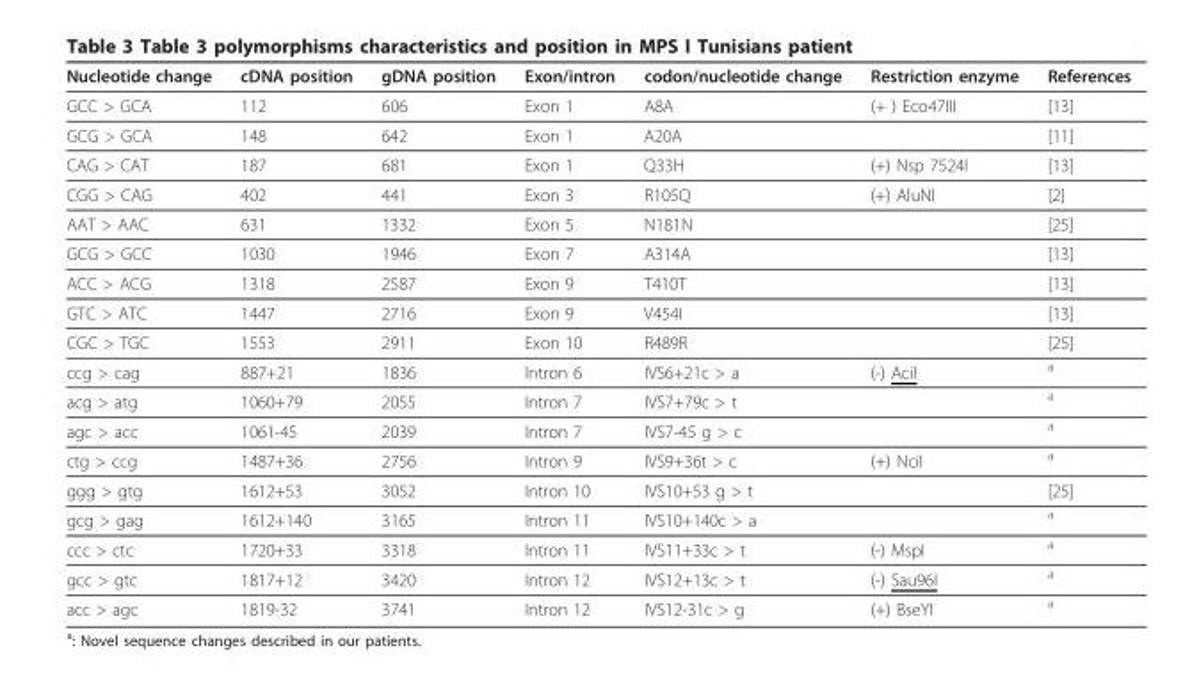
<table><thead><tr><td>Nucleotide change</td><td>cDNA position</td><td>gDNA position</td><td>Exon/intron</td><td>codon/nucleotide change</td><td>Restriction enzyme</td><td>References</td></tr></thead><tbody><tr><td>GCC &gt; GCA</td><td>112</td><td>606</td><td>Exon 1</td><td>A8A</td><td>(+ ) Eco47III</td><td>[13]</td></tr><tr><td>GCG &gt; GCA</td><td>148</td><td>642</td><td>Exon 1</td><td>A20A</td><td></td><td>[11]</td></tr><tr><td>CAG &gt; CAT</td><td>187</td><td>681</td><td>Exon 1</td><td>Q33H</td><td>(+) Nsp 7524I</td><td>[13]</td></tr><tr><td>CGG &gt; CAG</td><td>402</td><td>441</td><td>Exon 3</td><td>R105Q</td><td>(+) AluNI</td><td>[2]</td></tr><tr><td>AAT &gt; AAC</td><td>631</td><td>1332</td><td>Exon 5</td><td>N181N</td><td></td><td>[25]</td></tr><tr><td>GCG &gt; GCC</td><td>1030</td><td>1946</td><td>Exon 7</td><td>A314A</td><td></td><td>[13]</td></tr><tr><td>ACC &gt; ACG</td><td>1318</td><td>2587</td><td>Exon 9</td><td>T410T</td><td></td><td>[13]</td></tr><tr><td>GTC &gt; ATC</td><td>1447</td><td>2716</td><td>Exon 9</td><td>V454I</td><td></td><td>[13]</td></tr><tr><td>CGC &gt; TGC</td><td>1553</td><td>2911</td><td>Exon 10</td><td>R489R</td><td></td><td>[25]</td></tr><tr><td>ccg &gt; cag</td><td>887+21</td><td>1836</td><td>Intron 6</td><td>IVS6+21c &gt; a</td><td>(-) AciI</td><td><sup>a</sup></td></tr><tr><td>acg &gt; atg</td><td>1060+79</td><td>2055</td><td>Intron 7</td><td>IVS7+79c &gt; t</td><td></td><td><sup>a</sup></td></tr><tr><td>agc &gt; acc</td><td>1061-45</td><td>2039</td><td>Intron 7</td><td>IVS7-45 g &gt; c</td><td></td><td><sup>a</sup></td></tr><tr><td>ctg &gt; ccg</td><td>1487+36</td><td>2756</td><td>Intron 9</td><td>IVS9+36t &gt; c</td><td>(+) NciI</td><td><sup>a</sup></td></tr><tr><td>ggg &gt; gtg</td><td>1612+53</td><td>3052</td><td>Intron 10</td><td>IVS10+53 g &gt; t</td><td></td><td>[25]</td></tr><tr><td>gcg &gt; gag</td><td>1612+140</td><td>3165</td><td>Intron 11</td><td>IVS10+140c &gt; a</td><td></td><td><sup>a</sup></td></tr><tr><td>ccc &gt; ctc</td><td>1720+33</td><td>3318</td><td>Intron 11</td><td>IVS11+33c &gt; t</td><td>(-) MspI</td><td><sup>a</sup></td></tr><tr><td>gcc &gt; gtc</td><td>1817+12</td><td>3420</td><td>Intron 12</td><td>IVS12+13c &gt; t</td><td>(-) Sau96I</td><td><sup>a</sup></td></tr><tr><td>acc &gt; agc</td><td>1819-32</td><td>3741</td><td>Intron 12</td><td>IVS12-31c &gt; g</td><td>(+) BseYI</td><td><sup>a</sup></td></tr></tbody></table>